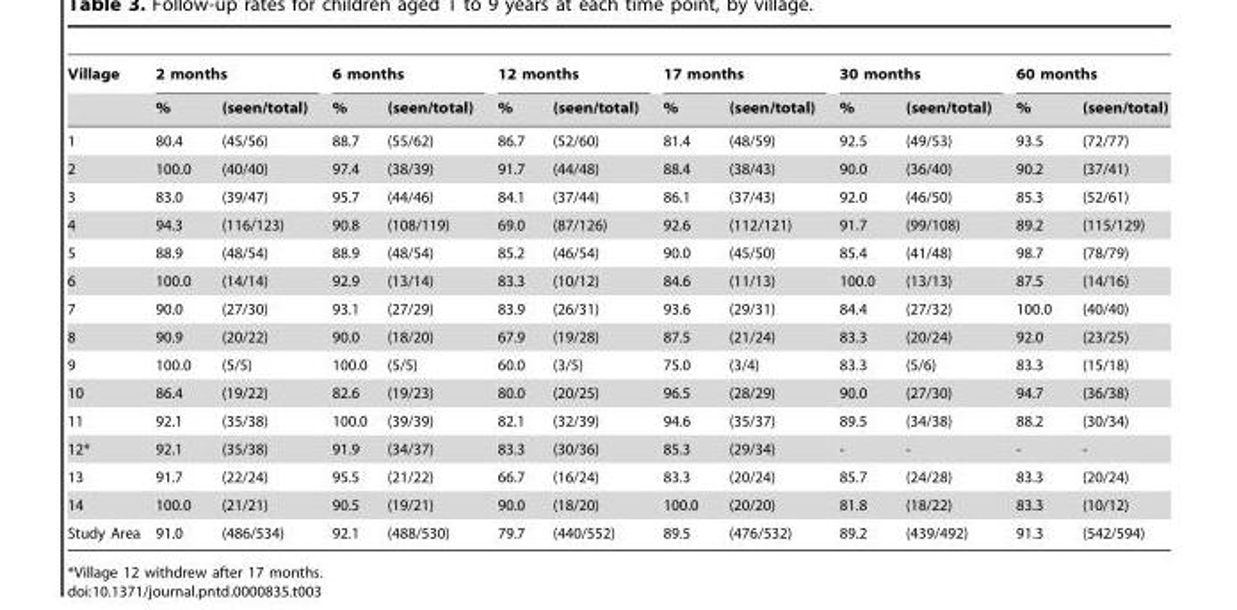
<table><thead><tr><td rowspan="2">Village</td><td colspan="2">2 months</td><td colspan="2">6 months</td><td colspan="2">12 months</td><td colspan="2">17 months</td><td colspan="2">30 months</td><td colspan="2">60 months</td></tr><tr><td>%</td><td>(seen/total)</td><td>%</td><td>(seen/total)</td><td>%</td><td>(seen/total)</td><td>%</td><td>(seen/total)</td><td>%</td><td>(seen/total)</td><td>%</td><td>(seen/total)</td></tr></thead><tbody><tr><td>1</td><td>80.4</td><td>(45/56)</td><td>88.7</td><td>(55/62)</td><td>86.7</td><td>(52/60)</td><td>81.4</td><td>(48/59)</td><td>92.5</td><td>(49/53)</td><td>93.5</td><td>(72/77)</td></tr><tr><td>2</td><td>100.0</td><td>(40/40)</td><td>97.4</td><td>(38/39)</td><td>91.7</td><td>(44/48)</td><td>88.4</td><td>(38/43)</td><td>90.0</td><td>(36/40)</td><td>90.2</td><td>(37/41)</td></tr><tr><td>3</td><td>83.0</td><td>(39/47)</td><td>95.7</td><td>(44/46)</td><td>84.1</td><td>(37/44)</td><td>86.1</td><td>(37/43)</td><td>92.0</td><td>(46/50)</td><td>85.3</td><td>(52/61)</td></tr><tr><td>4</td><td>94.3</td><td>(116/123)</td><td>90.8</td><td>(108/119)</td><td>69.0</td><td>(87/126)</td><td>92.6</td><td>(112/121)</td><td>91.7</td><td>(99/108)</td><td>89.2</td><td>(115/129)</td></tr><tr><td>5</td><td>88.9</td><td>(48/54)</td><td>88.9</td><td>(48/54)</td><td>85.2</td><td>(46/54)</td><td>90.0</td><td>(45/50)</td><td>85.4</td><td>(41/48)</td><td>98.7</td><td>(78/79)</td></tr><tr><td>6</td><td>100.0</td><td>(14/14)</td><td>92.9</td><td>(13/14)</td><td>83.3</td><td>(10/12)</td><td>84.6</td><td>(11/13)</td><td>100.0</td><td>(13/13)</td><td>87.5</td><td>(14/16)</td></tr><tr><td>7</td><td>90.0</td><td>(27/30)</td><td>93.1</td><td>(27/29)</td><td>83.9</td><td>(26/31)</td><td>93.6</td><td>(29/31)</td><td>84.4</td><td>(27/32)</td><td>100.0</td><td>(40/40)</td></tr><tr><td>8</td><td>90.9</td><td>(20/22)</td><td>90.0</td><td>(18/20)</td><td>67.9</td><td>(19/28)</td><td>87.5</td><td>(21/24)</td><td>83.3</td><td>(20/24)</td><td>92.0</td><td>(23/25)</td></tr><tr><td>9</td><td>100.0</td><td>(5/5)</td><td>100.0</td><td>(5/5)</td><td>60.0</td><td>(3/5)</td><td>75.0</td><td>(3/4)</td><td>83.3</td><td>(5/6)</td><td>83.3</td><td>(15/18)</td></tr><tr><td>10</td><td>86.4</td><td>(19/22)</td><td>82.6</td><td>(19/23)</td><td>80.0</td><td>(20/25)</td><td>96.5</td><td>(28/29)</td><td>90.0</td><td>(27/30)</td><td>94.7</td><td>(36/38)</td></tr><tr><td>11</td><td>92.1</td><td>(35/38)</td><td>100.0</td><td>(39/39)</td><td>82.1</td><td>(32/39)</td><td>94.6</td><td>(35/37)</td><td>89.5</td><td>(34/38)</td><td>88.2</td><td>(30/34)</td></tr><tr><td>12*</td><td>92.1</td><td>(35/38)</td><td>91.9</td><td>(34/37)</td><td>83.3</td><td>(30/36)</td><td>85.3</td><td>(29/34)</td><td>-</td><td>-</td><td>-</td><td>-</td></tr><tr><td>13</td><td>91.7</td><td>(22/24)</td><td>95.5</td><td>(21/22)</td><td>66.7</td><td>(16/24)</td><td>83.3</td><td>(20/24)</td><td>85.7</td><td>(24/28)</td><td>83.3</td><td>(20/24)</td></tr><tr><td>14</td><td>100.0</td><td>(21/21)</td><td>90.5</td><td>(19/21)</td><td>90.0</td><td>(18/20)</td><td>100.0</td><td>(20/20)</td><td>81.8</td><td>(18/22)</td><td>83.3</td><td>(10/12)</td></tr><tr><td>Study Area</td><td>91.0</td><td>(486/534)</td><td>92.1</td><td>(488/530)</td><td>79.7</td><td>(440/552)</td><td>89.5</td><td>(476/532)</td><td>89.2</td><td>(439/492)</td><td>91.3</td><td>(542/594)</td></tr></tbody></table>